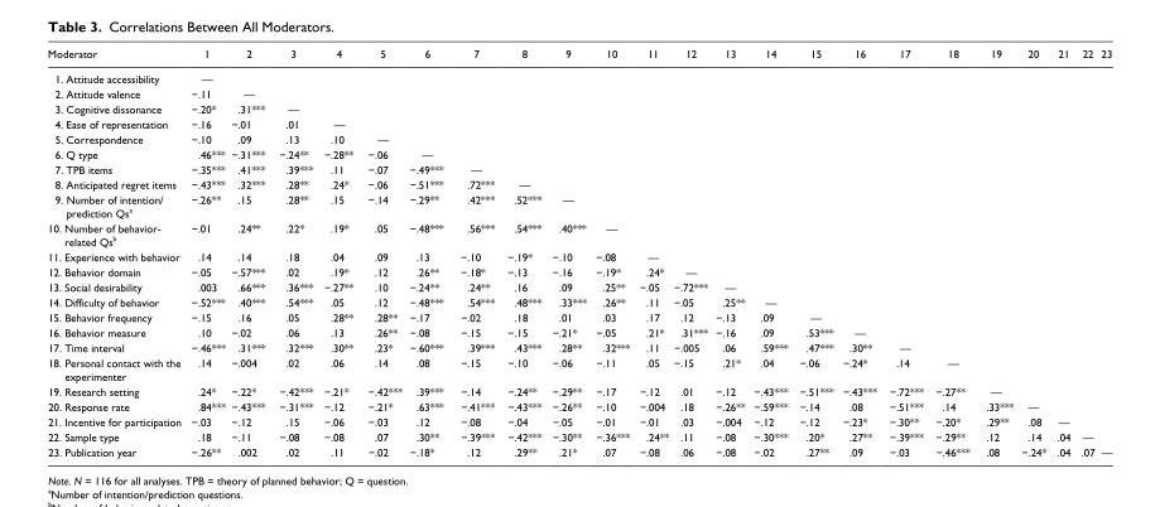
<table><thead><tr><td>Moderator</td><td>1</td><td>2</td><td>3</td><td>4</td><td>5</td><td>6</td><td>7</td><td>8</td><td>9</td><td>10</td><td>11</td><td>12</td><td>13</td><td>14</td><td>15</td><td>16</td><td>17</td><td>18</td><td>19</td><td>20</td><td>21</td><td>22</td><td>23</td></tr></thead><tbody><tr><td>1. Attitude accessibility</td><td>—</td><td></td><td></td><td></td><td></td><td></td><td></td><td></td><td></td><td></td><td></td><td></td><td></td><td></td><td></td><td></td><td></td><td></td><td></td><td></td><td></td><td></td><td></td></tr><tr><td>2. Attitude valence</td><td>−.11</td><td>—</td><td></td><td></td><td></td><td></td><td></td><td></td><td></td><td></td><td></td><td></td><td></td><td></td><td></td><td></td><td></td><td></td><td></td><td></td><td></td><td></td><td></td></tr><tr><td>3. Cognitive dissonance</td><td>−.20*</td><td>.31***</td><td>—</td><td></td><td></td><td></td><td></td><td></td><td></td><td></td><td></td><td></td><td></td><td></td><td></td><td></td><td></td><td></td><td></td><td></td><td></td><td></td><td></td></tr><tr><td>4. Ease of representation</td><td>−.16</td><td>−.01</td><td>.01</td><td>—</td><td></td><td></td><td></td><td></td><td></td><td></td><td></td><td></td><td></td><td></td><td></td><td></td><td></td><td></td><td></td><td></td><td></td><td></td><td></td></tr><tr><td>5. Correspondence</td><td>−.10</td><td>.09</td><td>.13</td><td>.10</td><td>—</td><td></td><td></td><td></td><td></td><td></td><td></td><td></td><td></td><td></td><td></td><td></td><td></td><td></td><td></td><td></td><td></td><td></td><td></td></tr><tr><td>6. Q type</td><td>.46***</td><td>−.31***</td><td>−.24**</td><td>−.28**</td><td>−.06</td><td>—</td><td></td><td></td><td></td><td></td><td></td><td></td><td></td><td></td><td></td><td></td><td></td><td></td><td></td><td></td><td></td><td></td><td></td></tr><tr><td>7. TPB items</td><td>−.35***</td><td>.41***</td><td>.39***</td><td>.11</td><td>−.07</td><td>−.49***</td><td>—</td><td></td><td></td><td></td><td></td><td></td><td></td><td></td><td></td><td></td><td></td><td></td><td></td><td></td><td></td><td></td><td></td></tr><tr><td>8. Anticipated regret items</td><td>−.43***</td><td>.32***</td><td>.28**</td><td>.24*</td><td>−.06</td><td>−.51***</td><td>.72***</td><td>—</td><td></td><td></td><td></td><td></td><td></td><td></td><td></td><td></td><td></td><td></td><td></td><td></td><td></td><td></td><td></td></tr><tr><td>9. Number of intention/ prediction Qs<sup>a</sup></td><td>−.26**</td><td>.15</td><td>.28**</td><td>.15</td><td>−.14</td><td>−.29**</td><td>.42***</td><td>.52***</td><td>—</td><td></td><td></td><td></td><td></td><td></td><td></td><td></td><td></td><td></td><td></td><td></td><td></td><td></td><td></td></tr><tr><td>10. Number of behavior- related Qs<sup>b</sup></td><td>−.01</td><td>.24**</td><td>.22*</td><td>.19*</td><td>.05</td><td>−.48***</td><td>.56***</td><td>.54***</td><td>.40***</td><td>—</td><td></td><td></td><td></td><td></td><td></td><td></td><td></td><td></td><td></td><td></td><td></td><td></td><td></td></tr><tr><td>11. Experience with behavior</td><td>.14</td><td>.14</td><td>.18</td><td>.04</td><td>.09</td><td>.13</td><td>−.10</td><td>−.19*</td><td>−.10</td><td>−.08</td><td>—</td><td></td><td></td><td></td><td></td><td></td><td></td><td></td><td></td><td></td><td></td><td></td><td></td></tr><tr><td>12. Behavior domain</td><td>−.05</td><td>−.57***</td><td>.02</td><td>.19*</td><td>.12</td><td>.26**</td><td>−.18*</td><td>−.13</td><td>−.16</td><td>−.19*</td><td>.24*</td><td>—</td><td></td><td></td><td></td><td></td><td></td><td></td><td></td><td></td><td></td><td></td><td></td></tr><tr><td>13. Social desirability</td><td>.003</td><td>.66***</td><td>.36***</td><td>−.27**</td><td>.10</td><td>−.24**</td><td>.24**</td><td>.16</td><td>.09</td><td>.25**</td><td>−.05</td><td>−.72***</td><td>—</td><td></td><td></td><td></td><td></td><td></td><td></td><td></td><td></td><td></td><td></td></tr><tr><td>14. Difficulty of behavior</td><td>−.52***</td><td>.40***</td><td>.54***</td><td>.05</td><td>.12</td><td>−.48***</td><td>.54***</td><td>.48***</td><td>.33***</td><td>.26**</td><td>.11</td><td>−.05</td><td>.25**</td><td>—</td><td></td><td></td><td></td><td></td><td></td><td></td><td></td><td></td><td></td></tr><tr><td>15. Behavior frequency</td><td>−.15</td><td>.16</td><td>.05</td><td>.28**</td><td>.28**</td><td>−.17</td><td>−.02</td><td>.18</td><td>.01</td><td>.03</td><td>.17</td><td>.12</td><td>−.13</td><td>.09</td><td>—</td><td></td><td></td><td></td><td></td><td></td><td></td><td></td><td></td></tr><tr><td>16. Behavior measure</td><td>.10</td><td>−.02</td><td>.06</td><td>.13</td><td>.26**</td><td>−.08</td><td>−.15</td><td>−.15</td><td>−.21*</td><td>−.05</td><td>.21*</td><td>.31***</td><td>−.16</td><td>.09</td><td>.53***</td><td>—</td><td></td><td></td><td></td><td></td><td></td><td></td><td></td></tr><tr><td>17. Time interval</td><td>−.46***</td><td>.31***</td><td>.32***</td><td>.30**</td><td>.23*</td><td>−.60***</td><td>.39***</td><td>.43***</td><td>.28**</td><td>.32***</td><td>.11</td><td>−.005</td><td>.06</td><td>.59***</td><td>.47***</td><td>.30**</td><td>—</td><td></td><td></td><td></td><td></td><td></td><td></td></tr><tr><td>18. Personal contact with the experimenter</td><td>.14</td><td>−.004</td><td>.02</td><td>.06</td><td>.14</td><td>.08</td><td>−.15</td><td>−.10</td><td>−.06</td><td>−.11</td><td>.05</td><td>−.15</td><td>.21*</td><td>.04</td><td>−.06</td><td>−.24*</td><td>.14</td><td>—</td><td></td><td></td><td></td><td></td><td></td></tr><tr><td>19. Research setting</td><td>.24*</td><td>−.22*</td><td>−.42***</td><td>−.21*</td><td>−.42***</td><td>.39***</td><td>−.14</td><td>−.24**</td><td>−.29**</td><td>−.17</td><td>−.12</td><td>.01</td><td>−.12</td><td>−.43***</td><td>−.51***</td><td>−.43***</td><td>−.72***</td><td>−.27**</td><td>—</td><td></td><td></td><td></td><td></td></tr><tr><td>20. Response rate</td><td>.84***</td><td>−.43***</td><td>−.31***</td><td>−.12</td><td>−.21*</td><td>.63***</td><td>−.41***</td><td>−.43***</td><td>−.26**</td><td>−.10</td><td>−.004</td><td>.18</td><td>−.26**</td><td>−.59***</td><td>−.14</td><td>.08</td><td>−.51***</td><td>.14</td><td>.33***</td><td>—</td><td></td><td></td><td></td></tr><tr><td>21. Incentive for participation</td><td>−.03</td><td>−.12</td><td>.15</td><td>−.06</td><td>−.03</td><td>.12</td><td>−.08</td><td>−.04</td><td>−.05</td><td>−.01</td><td>−.01</td><td>.03</td><td>−.004</td><td>−.12</td><td>−.12</td><td>−.23*</td><td>−.30**</td><td>−.20*</td><td>.29**</td><td>.08</td><td>—</td><td></td><td></td></tr><tr><td>22. Sample type</td><td>.18</td><td>−.11</td><td>−.08</td><td>−.08</td><td>.07</td><td>.30**</td><td>−.39***</td><td>−.42***</td><td>−.30**</td><td>−.36***</td><td>.24**</td><td>.11</td><td>−.08</td><td>−.30***</td><td>.20*</td><td>.27**</td><td>−.39***</td><td>−.29**</td><td>.12</td><td>.14</td><td>.04</td><td>—</td><td></td></tr><tr><td>23. Publication year</td><td>−.26**</td><td>.002</td><td>.02</td><td>.11</td><td>−.02</td><td>−.18*</td><td>.12</td><td>.29**</td><td>.21*</td><td>.07</td><td>−.08</td><td>.06</td><td>−.08</td><td>−.02</td><td>.27**</td><td>.09</td><td>−.03</td><td>−.46***</td><td>.08</td><td>−.24*</td><td>.04</td><td>.07</td><td>—</td></tr></tbody></table>